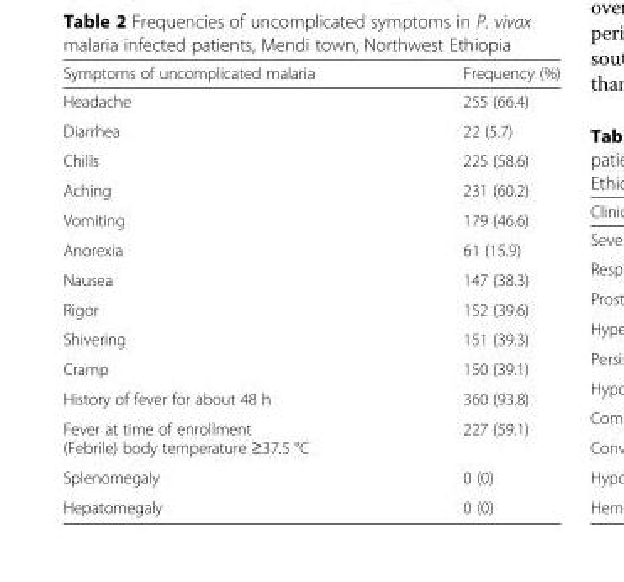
<table><thead><tr><td>Symptoms of uncomplicated malaria</td><td>Frequency (%)</td></tr></thead><tbody><tr><td>Headache</td><td>255 (66.4)</td></tr><tr><td>Diarrhea</td><td>22 (5.7)</td></tr><tr><td>Chills</td><td>225 (58.6)</td></tr><tr><td>Aching</td><td>231 (60.2)</td></tr><tr><td>Vomiting</td><td>179 (46.6)</td></tr><tr><td>Anorexia</td><td>61 (15.9)</td></tr><tr><td>Nausea</td><td>147 (38.3)</td></tr><tr><td>Rigor</td><td>152 (39.6)</td></tr><tr><td>Shivering</td><td>151 (39.3)</td></tr><tr><td>Cramp</td><td>150 (39.1)</td></tr><tr><td>History of fever for about 48 h</td><td>360 (93.8)</td></tr><tr><td>Fever at time of enrollment (Febrile) body temperature ≥37.5 °C</td><td>227 (59.1)</td></tr><tr><td>Splenomegaly</td><td>0 (0)</td></tr><tr><td>Hepatomegaly</td><td>0 (0)</td></tr></tbody></table>